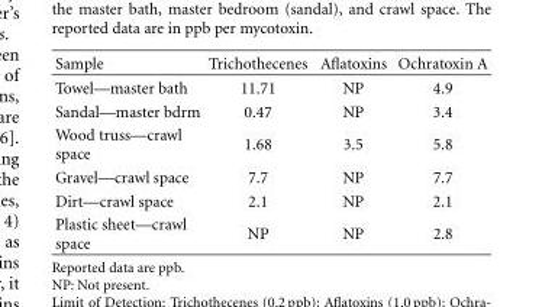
<table><thead><tr><td>Sample</td><td>Trichothecenes</td><td>Aflatoxins</td><td>Ochratoxin A</td></tr></thead><tbody><tr><td>Towel—master bath</td><td>11.71</td><td>NP</td><td>4.9</td></tr><tr><td>Sandal—master bdrm</td><td>0.47</td><td>NP</td><td>3.4</td></tr><tr><td>Wood truss—crawl space</td><td>1.68</td><td>3.5</td><td>5.8</td></tr><tr><td>Gravel—crawl space</td><td>7.7</td><td>NP</td><td>7.7</td></tr><tr><td>Dirt—crawl space</td><td>2.1</td><td>NP</td><td>2.1</td></tr><tr><td>Plastic sheet—crawl space</td><td>NP</td><td>NP</td><td>2.8</td></tr></tbody></table>